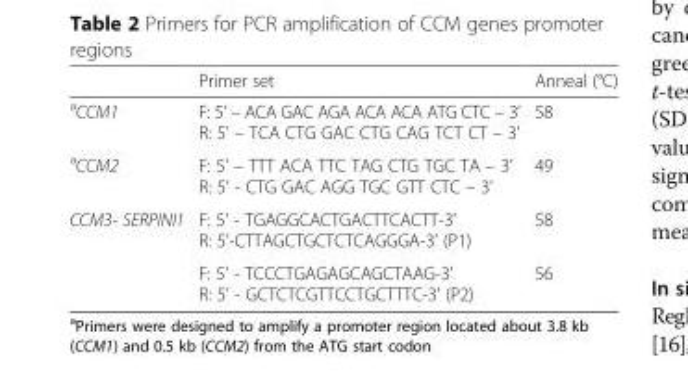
<table><thead><tr><td></td><td>Primer set</td><td>Anneal (°C)</td></tr></thead><tbody><tr><td><sup>a</sup>CCM1</td><td>F: 5’ – ACA GAC AGA ACA ACA ATG CTC – 3’ R: 5’ – TCA CTG GAC CTG CAG TCT CT – 3’</td><td>58</td></tr><tr><td><sup>a</sup>CCM2</td><td>F: 5’ – TTT ACA TTC TAG CTG TGC TA – 3’ R: 5’ - CTG GAC AGG TGC GTT CTC – 3’</td><td>49</td></tr><tr><td rowspan="2">CCM3- SERPINI1</td><td>F: 5’ - TGAGGCACTGACTTCACTT-3’ R: 5’-CTTAGCTGCTCTCAGGGA-3’ (P1)</td><td>58</td></tr><tr><td>F: 5’ - TCCCTGAGAGCAGCTAAG-3’ R: 5’ - GCTCTCGTTCCTGCTTTC-3’ (P2)</td><td>56</td></tr></tbody></table>